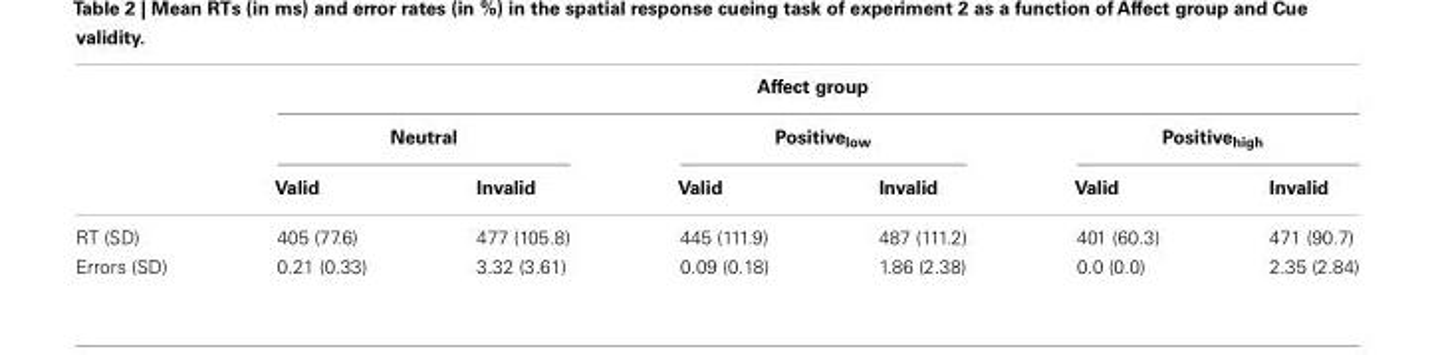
<table><thead><tr><td rowspan="3"></td><td colspan="6">Affect group</td></tr><tr><td colspan="2">Neutral</td><td colspan="2">Positive<sub>low</sub></td><td colspan="2">Positive<sub>high</sub></td></tr><tr><td>Valid</td><td>Invalid</td><td>Valid</td><td>Invalid</td><td>Valid</td><td>Invalid</td></tr></thead><tbody><tr><td>RT (SD)</td><td>405 (77.6)</td><td>477 (105.8)</td><td>445 (111.9)</td><td>487 (111.2)</td><td>401 (60.3)</td><td>471 (90.7)</td></tr><tr><td>Errors (SD)</td><td>0.21 (0.33)</td><td>3.32 (3.61)</td><td>0.09 (0.18)</td><td>1.86 (2.38)</td><td>0.0 (0.0)</td><td>2.35 (2.84)</td></tr></tbody></table>